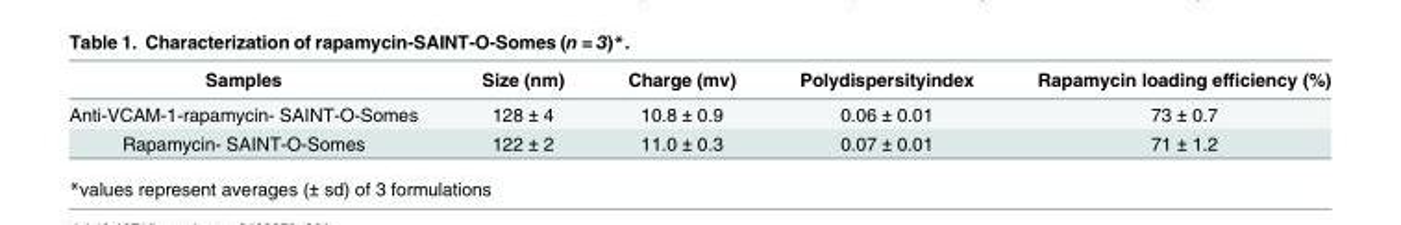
<table><thead><tr><td>Samples</td><td>Size (nm)</td><td>Charge (mv)</td><td>Polydispersityindex</td><td>Rapamycin loading efficiency (%)</td></tr></thead><tbody><tr><td>Anti-VCAM-1-rapamycin- SAINT-O-Somes</td><td>128 ± 4</td><td>10.8 ± 0.9</td><td>0.06 ± 0.01</td><td>73 ± 0.7</td></tr><tr><td>Rapamycin- SAINT-O-Somes</td><td>122 ± 2</td><td>11.0 ± 0.3</td><td>0.07 ± 0.01</td><td>71 ± 1.2</td></tr></tbody></table>